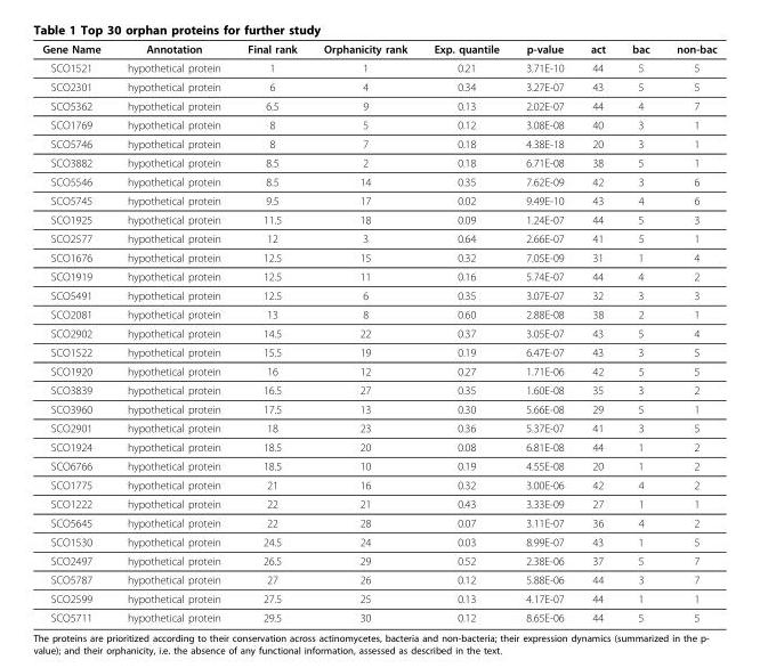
<table><thead><tr><td>Gene Name</td><td>Annotation</td><td>Final rank</td><td>Orphanicity rank</td><td>Exp. quantile</td><td>p-value</td><td>act</td><td>bac</td><td>non-bac</td></tr></thead><tbody><tr><td>SCO1521</td><td>hypothetical protein</td><td>1</td><td>1</td><td>0.21</td><td>3.71E-10</td><td>44</td><td>5</td><td>5</td></tr><tr><td>SCO2301</td><td>hypothetical protein</td><td>6</td><td>4</td><td>0.34</td><td>3.27E-07</td><td>43</td><td>5</td><td>5</td></tr><tr><td>SCO5362</td><td>hypothetical protein</td><td>6.5</td><td>9</td><td>0.13</td><td>2.02E-07</td><td>44</td><td>4</td><td>7</td></tr><tr><td>SCO1769</td><td>hypothetical protein</td><td>8</td><td>5</td><td>0.12</td><td>3.08E-08</td><td>40</td><td>3</td><td>1</td></tr><tr><td>SCO5746</td><td>hypothetical protein</td><td>8</td><td>7</td><td>0.18</td><td>4.38E-18</td><td>20</td><td>3</td><td>1</td></tr><tr><td>SCO3882</td><td>hypothetical protein</td><td>8.5</td><td>2</td><td>0.18</td><td>6.71E-08</td><td>38</td><td>5</td><td>1</td></tr><tr><td>SCO5546</td><td>hypothetical protein</td><td>8.5</td><td>14</td><td>0.35</td><td>7.62E-09</td><td>42</td><td>3</td><td>6</td></tr><tr><td>SCO5745</td><td>hypothetical protein</td><td>9.5</td><td>17</td><td>0.02</td><td>9.49E-10</td><td>43</td><td>4</td><td>6</td></tr><tr><td>SCO1925</td><td>hypothetical protein</td><td>11.5</td><td>18</td><td>0.09</td><td>1.24E-07</td><td>44</td><td>5</td><td>3</td></tr><tr><td>SCO2577</td><td>hypothetical protein</td><td>12</td><td>3</td><td>0.64</td><td>2.66E-07</td><td>41</td><td>5</td><td>1</td></tr><tr><td>SCO1676</td><td>hypothetical protein</td><td>12.5</td><td>15</td><td>0.32</td><td>7.05E-09</td><td>31</td><td>1</td><td>4</td></tr><tr><td>SCO1919</td><td>hypothetical protein</td><td>12.5</td><td>11</td><td>0.16</td><td>5.74E-07</td><td>44</td><td>4</td><td>2</td></tr><tr><td>SCO5491</td><td>hypothetical protein</td><td>12.5</td><td>6</td><td>0.35</td><td>3.07E-07</td><td>32</td><td>3</td><td>3</td></tr><tr><td>SCO2081</td><td>hypothetical protein</td><td>13</td><td>8</td><td>0.60</td><td>2.88E-08</td><td>38</td><td>2</td><td>1</td></tr><tr><td>SCO2902</td><td>hypothetical protein</td><td>14.5</td><td>22</td><td>0.37</td><td>3.05E-07</td><td>43</td><td>5</td><td>4</td></tr><tr><td>SCO1522</td><td>hypothetical protein</td><td>15.5</td><td>19</td><td>0.19</td><td>6.47E-07</td><td>43</td><td>3</td><td>5</td></tr><tr><td>SCO1920</td><td>hypothetical protein</td><td>16</td><td>12</td><td>0.27</td><td>1.71E-06</td><td>42</td><td>5</td><td>5</td></tr><tr><td>SCO3839</td><td>hypothetical protein</td><td>16.5</td><td>27</td><td>0.35</td><td>1.60E-08</td><td>35</td><td>3</td><td>2</td></tr><tr><td>SCO3960</td><td>hypothetical protein</td><td>17.5</td><td>13</td><td>0.30</td><td>5.66E-08</td><td>29</td><td>5</td><td>1</td></tr><tr><td>SCO2901</td><td>hypothetical protein</td><td>18</td><td>23</td><td>0.36</td><td>5.37E-07</td><td>41</td><td>3</td><td>5</td></tr><tr><td>SCO1924</td><td>hypothetical protein</td><td>18.5</td><td>20</td><td>0.08</td><td>6.81E-08</td><td>44</td><td>1</td><td>2</td></tr><tr><td>SCO6766</td><td>hypothetical protein</td><td>18.5</td><td>10</td><td>0.19</td><td>4.55E-08</td><td>20</td><td>1</td><td>2</td></tr><tr><td>SCO1775</td><td>hypothetical protein</td><td>21</td><td>16</td><td>0.32</td><td>3.00E-06</td><td>42</td><td>4</td><td>2</td></tr><tr><td>SCO1222</td><td>hypothetical protein</td><td>22</td><td>21</td><td>0.43</td><td>3.33E-09</td><td>27</td><td>1</td><td>1</td></tr><tr><td>SCO5645</td><td>hypothetical protein</td><td>22</td><td>28</td><td>0.07</td><td>3.11E-07</td><td>36</td><td>4</td><td>2</td></tr><tr><td>SCO1530</td><td>hypothetical protein</td><td>24.5</td><td>24</td><td>0.03</td><td>8.99E-07</td><td>43</td><td>1</td><td>5</td></tr><tr><td>SCO2497</td><td>hypothetical protein</td><td>26.5</td><td>29</td><td>0.52</td><td>2.38E-06</td><td>37</td><td>5</td><td>7</td></tr><tr><td>SCO5787</td><td>hypothetical protein</td><td>27</td><td>26</td><td>0.12</td><td>5.88E-06</td><td>44</td><td>3</td><td>7</td></tr><tr><td>SCO2599</td><td>hypothetical protein</td><td>27.5</td><td>25</td><td>0.13</td><td>4.17E-07</td><td>44</td><td>1</td><td>1</td></tr><tr><td>SCO5711</td><td>hypothetical protein</td><td>29.5</td><td>30</td><td>0.12</td><td>8.65E-06</td><td>44</td><td>5</td><td>5</td></tr></tbody></table>